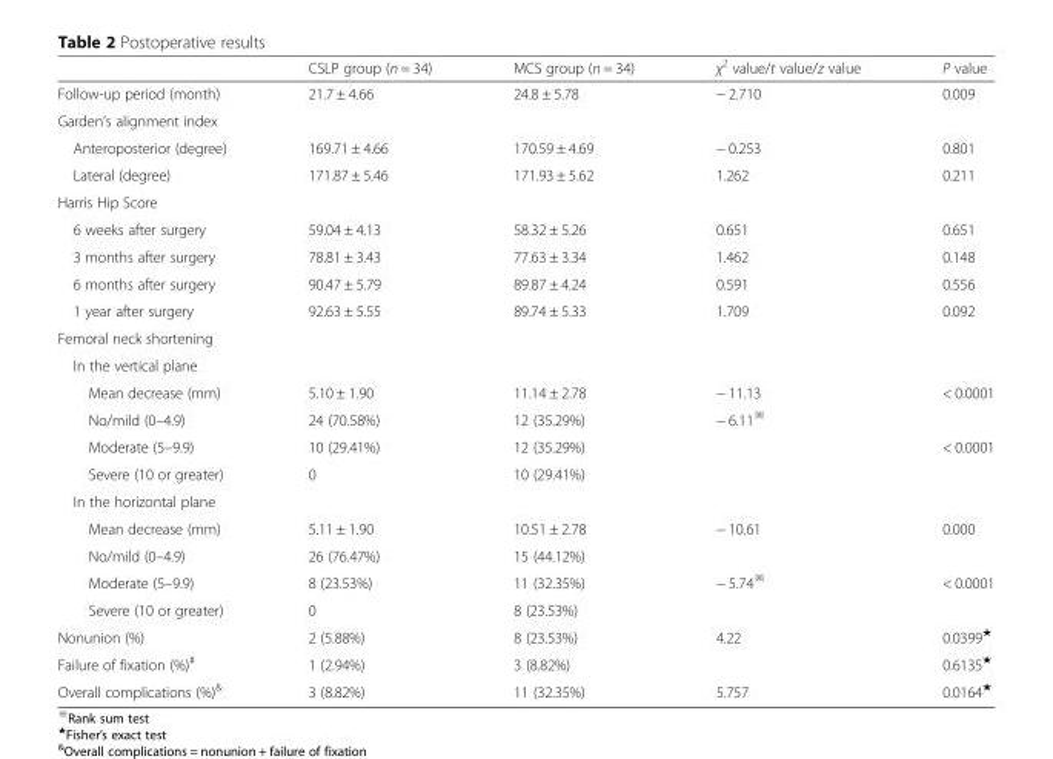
<table><thead><tr><td></td><td>CSLP group (n = 34)</td><td>MCS group (n = 34)</td><td>χ<sup>2</sup> value/t value/z value</td><td>P value</td></tr></thead><tbody><tr><td>Follow-up period (month)</td><td>21.7 ± 4.66</td><td>24.8 ± 5.78</td><td>− 2.710</td><td>0.009</td></tr><tr><td colspan="5">Garden’s alignment index</td></tr><tr><td>Anteroposterior (degree)</td><td>169.71 ± 4.66</td><td>170.59 ± 4.69</td><td>− 0.253</td><td>0.801</td></tr><tr><td>Lateral (degree)</td><td>171.87 ± 5.46</td><td>171.93 ± 5.62</td><td>1.262</td><td>0.211</td></tr><tr><td colspan="5">Harris Hip Score</td></tr><tr><td>6 weeks after surgery</td><td>59.04 ± 4.13</td><td>58.32 ± 5.26</td><td>0.651</td><td>0.651</td></tr><tr><td>3 months after surgery</td><td>78.81 ± 3.43</td><td>77.63 ± 3.34</td><td>1.462</td><td>0.148</td></tr><tr><td>6 months after surgery</td><td>90.47 ± 5.79</td><td>89.87 ± 4.24</td><td>0.591</td><td>0.556</td></tr><tr><td>1 year after surgery</td><td>92.63 ± 5.55</td><td>89.74 ± 5.33</td><td>1.709</td><td>0.092</td></tr><tr><td colspan="5">Femoral neck shortening</td></tr><tr><td colspan="5">In the vertical plane</td></tr><tr><td>Mean decrease (mm)</td><td>5.10 ± 1.90</td><td>11.14 ± 2.78</td><td>− 11.13</td><td>&lt; 0.0001</td></tr><tr><td>No/mild (0–4.9)</td><td>24 (70.58%)</td><td>12 (35.29%)</td><td>− 6.11<sup>※</sup></td><td></td></tr><tr><td>Moderate (5–9.9)</td><td>10 (29.41%)</td><td>12 (35.29%)</td><td></td><td>&lt; 0.0001</td></tr><tr><td>Severe (10 or greater)</td><td>0</td><td>10 (29.41%)</td><td></td><td></td></tr><tr><td colspan="5">In the horizontal plane</td></tr><tr><td>Mean decrease (mm)</td><td>5.11 ± 1.90</td><td>10.51 ± 2.78</td><td>− 10.61</td><td>0.000</td></tr><tr><td>No/mild (0–4.9)</td><td>26 (76.47%)</td><td>15 (44.12%)</td><td></td><td></td></tr><tr><td>Moderate (5–9.9)</td><td>8 (23.53%)</td><td>11 (32.35%)</td><td>− 5.74<sup>※</sup></td><td>&lt; 0.0001</td></tr><tr><td>Severe (10 or greater)</td><td>0</td><td>8 (23.53%)</td><td></td><td></td></tr><tr><td>Nonunion (%)</td><td>2 (5.88%)</td><td>8 (23.53%)</td><td>4.22</td><td>0.0399<sup>★</sup></td></tr><tr><td>Failure of fixation (%)<sup>#</sup></td><td>1 (2.94%)</td><td>3 (8.82%)</td><td></td><td>0.6135<sup>★</sup></td></tr><tr><td>Overall complications (%)<sup>&amp;</sup></td><td>3 (8.82%)</td><td>11 (32.35%)</td><td>5.757</td><td>0.0164<sup>★</sup></td></tr></tbody></table>